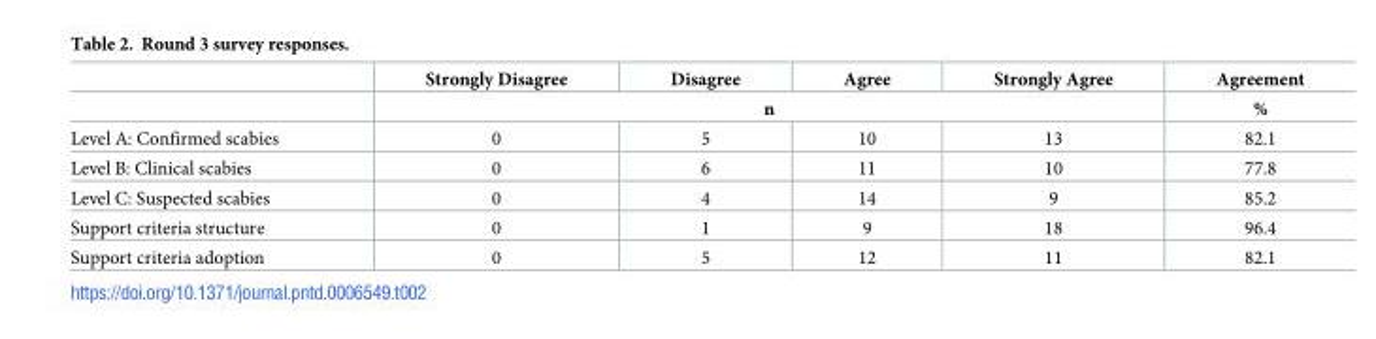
<table><thead><tr><td rowspan="2"></td><td>Strongly Disagree</td><td>Disagree</td><td>Agree</td><td>Strongly Agree</td><td rowspan="2">Agreement %</td></tr><tr><td colspan="4">n</td></tr></thead><tbody><tr><td>Level A: Confirmed scabies</td><td>0</td><td>5</td><td>10</td><td>13</td><td>82.1</td></tr><tr><td>Level B: Clinical scabies</td><td>0</td><td>6</td><td>11</td><td>10</td><td>77.8</td></tr><tr><td>Level C: Suspected scabies</td><td>0</td><td>4</td><td>14</td><td>9</td><td>85.2</td></tr><tr><td>Support criteria structure</td><td>0</td><td>1</td><td>9</td><td>18</td><td>96.4</td></tr><tr><td>Support criteria adoption</td><td>0</td><td>5</td><td>12</td><td>11</td><td>82.1</td></tr></tbody></table>